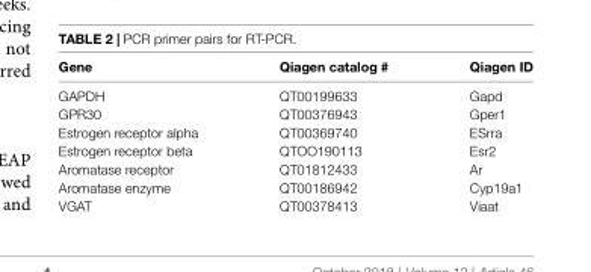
<table><thead><tr><td>Gene</td><td>Qiagen catalog #</td><td>Qiagen ID</td></tr></thead><tbody><tr><td>GAPDH</td><td>QT00199633</td><td>Gapd</td></tr><tr><td>GPR30</td><td>QT00376943</td><td>Gper1</td></tr><tr><td>Estrogen receptor alpha</td><td>QT00369740</td><td>ESrra</td></tr><tr><td>Estrogen receptor beta</td><td>QTOO190113</td><td>Esr2</td></tr><tr><td>Aromatase receptor</td><td>QT01812433</td><td>Ar</td></tr><tr><td>Aromatase enzyme</td><td>QT00186942</td><td>Cyp19a1</td></tr><tr><td>VGAT</td><td>QT00378413</td><td>Viaat</td></tr></tbody></table>